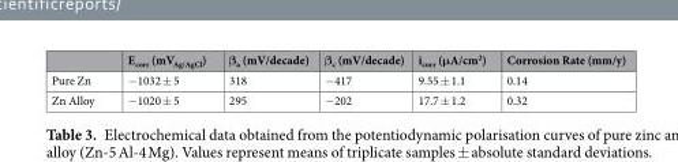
<table><thead><tr><td></td><td>E<sub>corr</sub> (mV<sub>Ag/AgCl</sub>)</td><td>β<sub>a</sub> (mV/decade)</td><td>β<sub>c</sub> (mV/decade)</td><td>i<sub>corr</sub> (μA/cm<sup>2</sup>)</td><td>Corrosion Rate (mm/y)</td></tr></thead><tbody><tr><td>Pure Zn</td><td>−1032 ± 5</td><td>318</td><td>−417</td><td>9.55 ± 1.1</td><td>0.14</td></tr><tr><td>Zn Alloy</td><td>−1020 ± 5</td><td>295</td><td>−202</td><td>17.7 ± 1.2</td><td>0.32</td></tr></tbody></table>